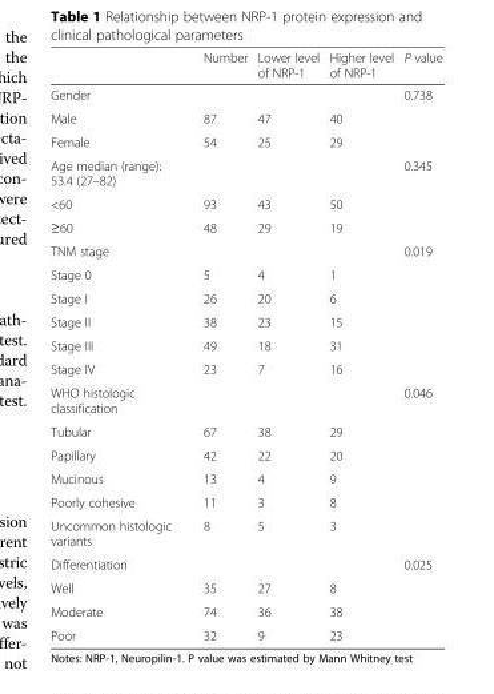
<table><thead><tr><td></td><td>Number</td><td>Lower level of NRP-1</td><td>Higher level of NRP-1</td><td>P value</td></tr></thead><tbody><tr><td>Gender</td><td></td><td></td><td></td><td>0.738</td></tr><tr><td>Male</td><td>87</td><td>47</td><td>40</td><td></td></tr><tr><td>Female</td><td>54</td><td>25</td><td>29</td><td></td></tr><tr><td>Age median (range): 53.4 (27–82)</td><td></td><td></td><td></td><td>0.345</td></tr><tr><td>&lt;60</td><td>93</td><td>43</td><td>50</td><td></td></tr><tr><td>≥60</td><td>48</td><td>29</td><td>19</td><td></td></tr><tr><td>TNM stage</td><td></td><td></td><td></td><td>0.019</td></tr><tr><td>Stage 0</td><td>5</td><td>4</td><td>1</td><td></td></tr><tr><td>Stage I</td><td>26</td><td>20</td><td>6</td><td></td></tr><tr><td>Stage II</td><td>38</td><td>23</td><td>15</td><td></td></tr><tr><td>Stage III</td><td>49</td><td>18</td><td>31</td><td></td></tr><tr><td>Stage IV</td><td>23</td><td>7</td><td>16</td><td></td></tr><tr><td>WHO histologic classification</td><td></td><td></td><td></td><td>0.046</td></tr><tr><td>Tubular</td><td>67</td><td>38</td><td>29</td><td></td></tr><tr><td>Papillary</td><td>42</td><td>22</td><td>20</td><td></td></tr><tr><td>Mucinous</td><td>13</td><td>4</td><td>9</td><td></td></tr><tr><td>Poorly cohesive</td><td>11</td><td>3</td><td>8</td><td></td></tr><tr><td>Uncommon histologic variants</td><td>8</td><td>5</td><td>3</td><td></td></tr><tr><td>Differentiation</td><td></td><td></td><td></td><td>0.025</td></tr><tr><td>Well</td><td>35</td><td>27</td><td>8</td><td></td></tr><tr><td>Moderate</td><td>74</td><td>36</td><td>38</td><td></td></tr><tr><td>Poor</td><td>32</td><td>9</td><td>23</td><td></td></tr></tbody></table>